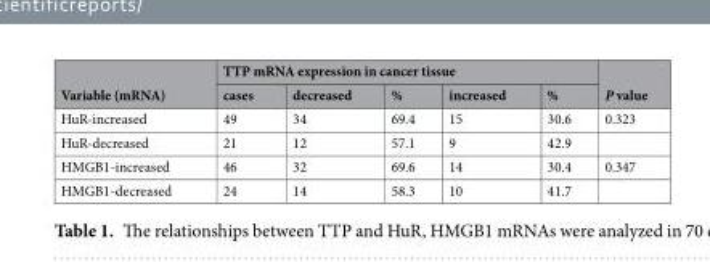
<table><thead><tr><td rowspan="2">Variable (mRNA)</td><td colspan="5">TTP mRNA expression in cancer tissue</td><td rowspan="2">P value</td></tr><tr><td>cases</td><td>decreased</td><td>%</td><td>increased</td><td>%</td></tr></thead><tbody><tr><td>HuR-increased</td><td>49</td><td>34</td><td>69.4</td><td>15</td><td>30.6</td><td>0.323</td></tr><tr><td>HuR-decreased</td><td>21</td><td>12</td><td>57.1</td><td>9</td><td>42.9</td><td></td></tr><tr><td>HMGB1-increased</td><td>46</td><td>32</td><td>69.6</td><td>14</td><td>30.4</td><td>0.347</td></tr><tr><td>HMGB1-decreased</td><td>24</td><td>14</td><td>58.3</td><td>10</td><td>41.7</td><td></td></tr></tbody></table>